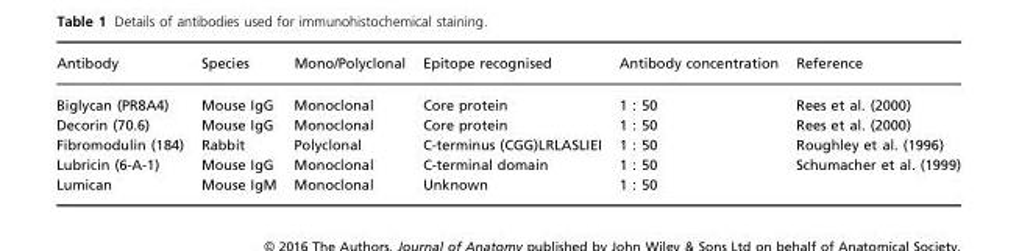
<table><thead><tr><td>Antibody</td><td>Species</td><td>Mono/Polyclonal</td><td>Epitope recognised</td><td>Antibody concentration</td><td>Reference</td></tr></thead><tbody><tr><td>Biglycan (PR8A4)</td><td>Mouse IgG</td><td>Monoclonal</td><td>Core protein</td><td>1 : 50</td><td>Rees et al. (2000)</td></tr><tr><td>Decorin (70.6)</td><td>Mouse IgG</td><td>Monoclonal</td><td>Core protein</td><td>1 : 50</td><td>Rees et al. (2000)</td></tr><tr><td>Fibromodulin (184)</td><td>Rabbit</td><td>Polyclonal</td><td>C-terminus (CGG)LRLASLIEI</td><td>1 : 50</td><td>Roughley et al. (1996)</td></tr><tr><td>Lubricin (6-A-1)</td><td>Mouse IgG</td><td>Monoclonal</td><td>C-terminal domain</td><td>1 : 50</td><td>Schumacher et al. (1999)</td></tr><tr><td>Lumican</td><td>Mouse IgM</td><td>Monoclonal</td><td>Unknown</td><td>1 : 50</td><td></td></tr></tbody></table>